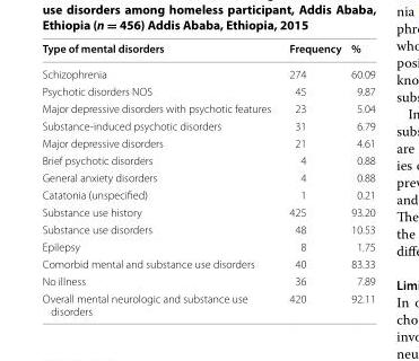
<table><thead><tr><td>Type of mental disorders</td><td>Frequency</td><td>%</td></tr></thead><tbody><tr><td>Schizophrenia</td><td>274</td><td>60.09</td></tr><tr><td>Psychotic disorders NOS</td><td>45</td><td>9.87</td></tr><tr><td>Major depressive disorders with psychotic features</td><td>23</td><td>5.04</td></tr><tr><td>Substance-induced psychotic disorders</td><td>31</td><td>6.79</td></tr><tr><td>Major depressive disorders</td><td>21</td><td>4.61</td></tr><tr><td>Brief psychotic disorders</td><td>4</td><td>0.88</td></tr><tr><td>General anxiety disorders</td><td>4</td><td>0.88</td></tr><tr><td>Catatonia (unspecified)</td><td>1</td><td>0.21</td></tr><tr><td>Substance use history</td><td>425</td><td>93.20</td></tr><tr><td>Substance use disorders</td><td>48</td><td>10.53</td></tr><tr><td>Epilepsy</td><td>8</td><td>1.75</td></tr><tr><td>Comorbid mental and substance use disorders</td><td>40</td><td>83.33</td></tr><tr><td>No illness</td><td>36</td><td>7.89</td></tr><tr><td>Overall mental neurologic and substance use disorders</td><td>420</td><td>92.11</td></tr></tbody></table>